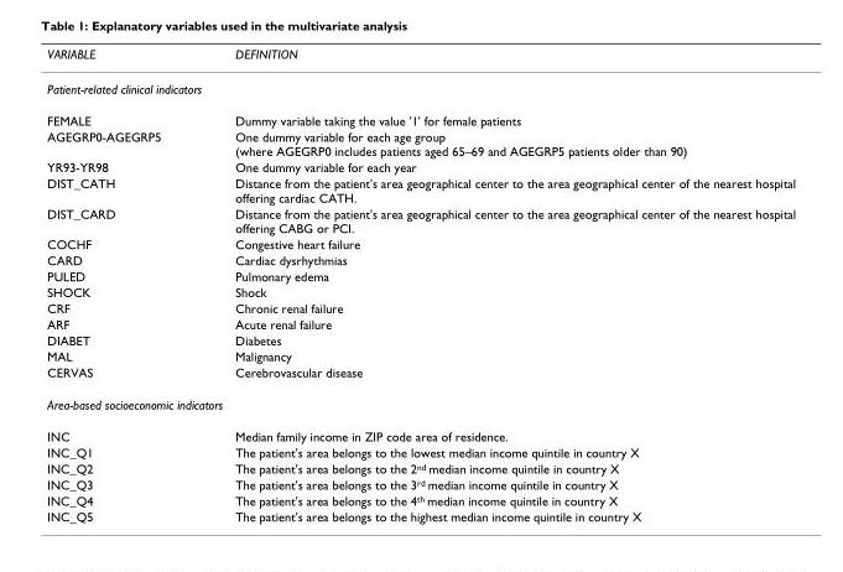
<table><thead><tr><td>VARIABLE</td><td>DEFINITION</td></tr></thead><tbody><tr><td colspan="2">Patient-related clinical indicators</td></tr><tr><td>FEMALE</td><td>Dummy variable taking the value &#x27;1&#x27; for female patients</td></tr><tr><td>AGEGRP0-AGEGRP5</td><td>One dummy variable for each age group (where AGEGRP0 includes patients aged 65–69 and AGEGRP5 patients older than 90)</td></tr><tr><td>YR93-YR98</td><td>One dummy variable for each year</td></tr><tr><td>DIST_CATH</td><td>Distance from the patient&#x27;s area geographical center to the area geographical center of the nearest hospital offering cardiac CATH.</td></tr><tr><td>DIST_CARD</td><td>Distance from the patient&#x27;s area geographical center to the area geographical center of the nearest hospital offering CABG or PCI.</td></tr><tr><td>COCHF</td><td>Congestive heart failure</td></tr><tr><td>CARD</td><td>Cardiac dysrhythmias</td></tr><tr><td>PULED</td><td>Pulmonary edema</td></tr><tr><td>SHOCK</td><td>Shock</td></tr><tr><td>CRF</td><td>Chronic renal failure</td></tr><tr><td>ARF</td><td>Acute renal failure</td></tr><tr><td>DIABET</td><td>Diabetes</td></tr><tr><td>MAL</td><td>Malignancy</td></tr><tr><td>CERVAS</td><td>Cerebrovascular disease</td></tr><tr><td colspan="2">Area-based socioeconomic indicators</td></tr><tr><td>INC</td><td>Median family income in ZIP code area of residence.</td></tr><tr><td>INC_Q1</td><td>The patient&#x27;s area belongs to the lowest median income quintile in country X</td></tr><tr><td>INC_Q2</td><td>The patient&#x27;s area belongs to the 2<sup>nd</sup> median income quintile in country X</td></tr><tr><td>INC_Q3</td><td>The patient&#x27;s area belongs to the 3<sup>rd</sup> median income quintile in country X</td></tr><tr><td>INC_Q4</td><td>The patient&#x27;s area belongs to the 4<sup>th</sup> median income quintile in country X</td></tr><tr><td>INC_Q5</td><td>The patient&#x27;s area belongs to the highest median income quintile in country X</td></tr></tbody></table>